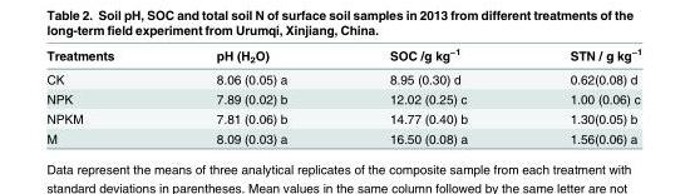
<table><thead><tr><td>Treatments</td><td>pH (H<sub>2</sub>O)</td><td>SOC /g kg<sup>−1</sup></td><td>STN / g kg<sup>−1</sup></td></tr></thead><tbody><tr><td>CK</td><td>8.06 (0.05) a</td><td>8.95 (0.30) d</td><td>0.62(0.08) d</td></tr><tr><td>NPK</td><td>7.89 (0.02) b</td><td>12.02 (0.25) c</td><td>1.00 (0.06) c</td></tr><tr><td>NPKM</td><td>7.81 (0.06) b</td><td>14.77 (0.40) b</td><td>1.30(0.05) b</td></tr><tr><td>M</td><td>8.09 (0.03) a</td><td>16.50 (0.08) a</td><td>1.56(0.06) a</td></tr></tbody></table>